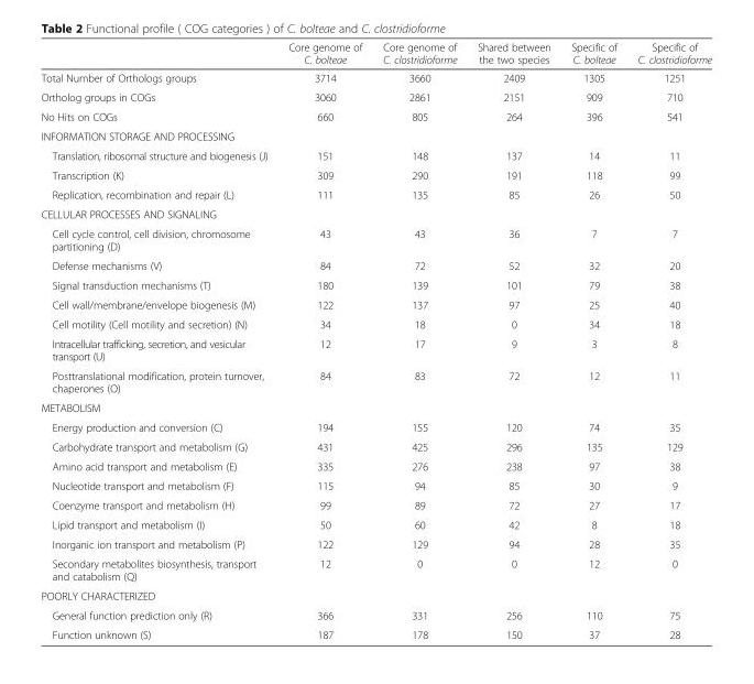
<table><thead><tr><td></td><td>Core genome of C. bolteae</td><td>Core genome of C. clostridioforme</td><td>Shared between the two species</td><td>Specific of C. bolteae</td><td>Specific of C. clostridioforme</td></tr></thead><tbody><tr><td>Total Number of Orthologs groups</td><td>3714</td><td>3660</td><td>2409</td><td>1305</td><td>1251</td></tr><tr><td>Ortholog groups in COGs</td><td>3060</td><td>2861</td><td>2151</td><td>909</td><td>710</td></tr><tr><td>No Hits on COGs</td><td>660</td><td>805</td><td>264</td><td>396</td><td>541</td></tr><tr><td colspan="6">INFORMATION STORAGE AND PROCESSING</td></tr><tr><td>Translation, ribosomal structure and biogenesis (J)</td><td>151</td><td>148</td><td>137</td><td>14</td><td>11</td></tr><tr><td>Transcription (K)</td><td>309</td><td>290</td><td>191</td><td>118</td><td>99</td></tr><tr><td>Replication, recombination and repair (L)</td><td>111</td><td>135</td><td>85</td><td>26</td><td>50</td></tr><tr><td colspan="6">CELLULAR PROCESSES AND SIGNALING</td></tr><tr><td>Cell cycle control, cell division, chromosome partitioning (D)</td><td>43</td><td>43</td><td>36</td><td>7</td><td>7</td></tr><tr><td>Defense mechanisms (V)</td><td>84</td><td>72</td><td>52</td><td>32</td><td>20</td></tr><tr><td>Signal transduction mechanisms (T)</td><td>180</td><td>139</td><td>101</td><td>79</td><td>38</td></tr><tr><td>Cell wall/membrane/envelope biogenesis (M)</td><td>122</td><td>137</td><td>97</td><td>25</td><td>40</td></tr><tr><td>Cell motility (Cell motility and secretion) (N)</td><td>34</td><td>18</td><td>0</td><td>34</td><td>18</td></tr><tr><td>Intracellular trafficking, secretion, and vesicular transport (U)</td><td>12</td><td>17</td><td>9</td><td>3</td><td>8</td></tr><tr><td>Posttranslational modification, protein turnover, chaperones (O)</td><td>84</td><td>83</td><td>72</td><td>12</td><td>11</td></tr><tr><td colspan="6">METABOLISM</td></tr><tr><td>Energy production and conversion (C)</td><td>194</td><td>155</td><td>120</td><td>74</td><td>35</td></tr><tr><td>Carbohydrate transport and metabolism (G)</td><td>431</td><td>425</td><td>296</td><td>135</td><td>129</td></tr><tr><td>Amino acid transport and metabolism (E)</td><td>335</td><td>276</td><td>238</td><td>97</td><td>38</td></tr><tr><td>Nucleotide transport and metabolism (F)</td><td>115</td><td>94</td><td>85</td><td>30</td><td>9</td></tr><tr><td>Coenzyme transport and metabolism (H)</td><td>99</td><td>89</td><td>72</td><td>27</td><td>17</td></tr><tr><td>Lipid transport and metabolism (I)</td><td>50</td><td>60</td><td>42</td><td>8</td><td>18</td></tr><tr><td>Inorganic ion transport and metabolism (P)</td><td>122</td><td>129</td><td>94</td><td>28</td><td>35</td></tr><tr><td>Secondary metabolites biosynthesis, transport and catabolism (Q)</td><td>12</td><td>0</td><td>0</td><td>12</td><td>0</td></tr><tr><td colspan="6">POORLY CHARACTERIZED</td></tr><tr><td>General function prediction only (R)</td><td>366</td><td>331</td><td>256</td><td>110</td><td>75</td></tr><tr><td>Function unknown (S)</td><td>187</td><td>178</td><td>150</td><td>37</td><td>28</td></tr></tbody></table>